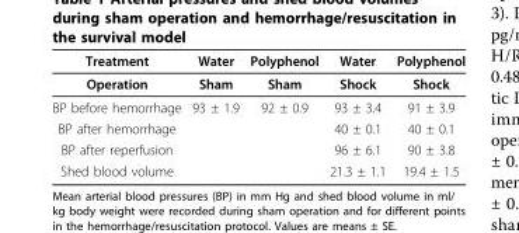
<table><thead><tr><td>Treatment</td><td>Water</td><td>Polyphenol</td><td>Water</td><td>Polyphenol</td></tr></thead><tbody><tr><td>Operation</td><td>Sham</td><td>Sham</td><td>Shock</td><td>Shock</td></tr><tr><td>BP before hemorrhage</td><td>93 ± 1.9</td><td>92 ± 0.9</td><td>93 ± 3.4</td><td>91 ± 3.9</td></tr><tr><td>BP after hemorrhage</td><td></td><td></td><td>40 ± 0.1</td><td>40 ± 0.1</td></tr><tr><td>BP after reperfusion</td><td></td><td></td><td>96 ± 6.1</td><td>90 ± 3.8</td></tr><tr><td>Shed blood volume</td><td></td><td></td><td>21.3 ± 1.1</td><td>19.4 ± 1.5</td></tr></tbody></table>